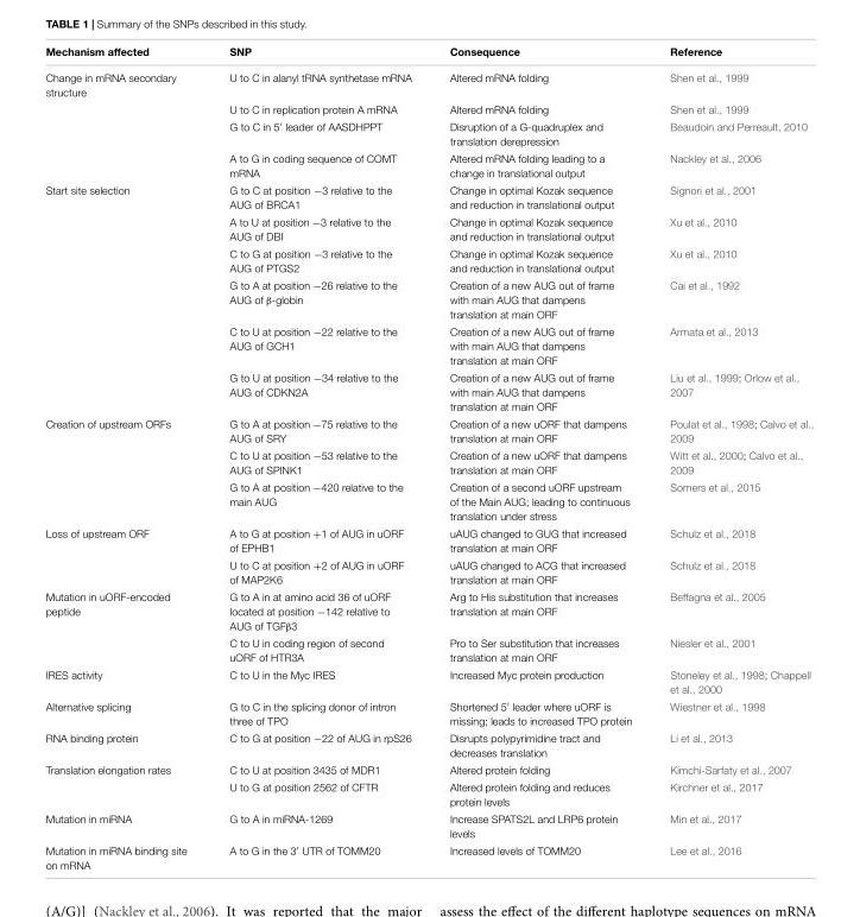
<table><thead><tr><td>Mechanism affected</td><td>SNP</td><td>Consequence</td><td>Reference</td></tr></thead><tbody><tr><td rowspan="4">Change in mRNA secondary structure</td><td>U to C in alanyl tRNA synthetase mRNA</td><td>Altered mRNA folding</td><td>Shen et al., 1999</td></tr><tr><td>U to C in replication protein A mRNA</td><td>Altered mRNA folding</td><td>Shen et al., 1999</td></tr><tr><td>G to C in 5′ leader of AASDHPPT</td><td>Disruption of a G-quadruplex and translation derepression</td><td>Beaudoin and Perreault, 2010</td></tr><tr><td>A to G in coding sequence of COMT mRNA</td><td>Altered mRNA folding leading to a change in translational output</td><td>Nackley et al., 2006</td></tr><tr><td rowspan="6">Start site selection</td><td>G to C at position −3 relative to the AUG of BRCA1</td><td>Change in optimal Kozak sequence and reduction in translational output</td><td>Signori et al., 2001</td></tr><tr><td>A to U at position −3 relative to the AUG of DBI</td><td>Change in optimal Kozak sequence and reduction in translational output</td><td>Xu et al., 2010</td></tr><tr><td>C to G at position −3 relative to the AUG of PTGS2</td><td>Change in optimal Kozak sequence and reduction in translational output</td><td>Xu et al., 2010</td></tr><tr><td>G to A at position −26 relative to the AUG of β-globin</td><td>Creation of a new AUG out of frame with main AUG that dampens translation at main ORF</td><td>Cai et al., 1992</td></tr><tr><td>C to U at position −22 relative to the AUG of GCH1</td><td>Creation of a new AUG out of frame with main AUG that dampens translation at main ORF</td><td>Armata et al., 2013</td></tr><tr><td>G to U at position −34 relative to the AUG of CDKN2A</td><td>Creation of a new AUG out of frame with main AUG that dampens translation at main ORF</td><td>Liu et al., 1999; Orlow et al., 2007</td></tr><tr><td rowspan="3">Creation of upstream ORFs</td><td>G to A at position −75 relative to the AUG of SRY</td><td>Creation of a new uORF that dampens translation at main ORF</td><td>Poulat et al., 1998; Calvo et al., 2009</td></tr><tr><td>C to U at position −53 relative to the AUG of SPINK1</td><td>Creation of a new uORF that dampens translation at main ORF</td><td>Witt et al., 2000; Calvo et al., 2009</td></tr><tr><td>G to A at position −420 relative to the main AUG</td><td>Creation of a second uORF upstream of the Main AUG; leading to continuous translation under stress</td><td>Somers et al., 2015</td></tr><tr><td rowspan="2">Loss of upstream ORF</td><td>A to G at position +1 of AUG in uORF of EPHB1</td><td>uAUG changed to GUG that increased translation at main ORF</td><td>Schulz et al., 2018</td></tr><tr><td>U to C at position +2 of AUG in uORF of MAP2K6</td><td>uAUG changed to ACG that increased translation at main ORF</td><td>Schulz et al., 2018</td></tr><tr><td rowspan="2">Mutation in uORF-encoded peptide</td><td>G to A in at amino acid 36 of uORF located at position −142 relative to AUG of TGFβ3</td><td>Arg to His substitution that increases translation at main ORF</td><td>Beffagna et al., 2005</td></tr><tr><td>C to U in coding region of second uORF of HTR3A</td><td>Pro to Ser substitution that increases translation at main ORF</td><td>Niesler et al., 2001</td></tr><tr><td>IRES activity</td><td>C to U in the Myc IRES</td><td>Increased Myc protein production</td><td>Stoneley et al., 1998; Chappell et al., 2000</td></tr><tr><td>Alternative splicing</td><td>G to C in the splicing donor of intron three of TPO</td><td>Shortened 5′ leader where uORF is missing; leads to increased TPO protein</td><td>Wiestner et al., 1998</td></tr><tr><td>RNA binding protein</td><td>C to G at position −22 of AUG in rpS26</td><td>Disrupts polypyrimidine tract and decreases translation</td><td>Li et al., 2013</td></tr><tr><td rowspan="2">Translation elongation rates</td><td>C to U at position 3435 of MDR1</td><td>Altered protein folding</td><td>Kimchi-Sarfaty et al., 2007</td></tr><tr><td>U to G at position 2562 of CFTR</td><td>Altered protein folding and reduces protein levels</td><td>Kirchner et al., 2017</td></tr><tr><td>Mutation in miRNA</td><td>G to A in miRNA-1269</td><td>Increase SPATS2L and LRP6 protein levels</td><td>Min et al., 2017</td></tr><tr><td>Mutation in miRNA binding site on mRNA</td><td>A to G in the 3′ UTR of TOMM20</td><td>Increased levels of TOMM20</td><td>Lee et al., 2016</td></tr></tbody></table>